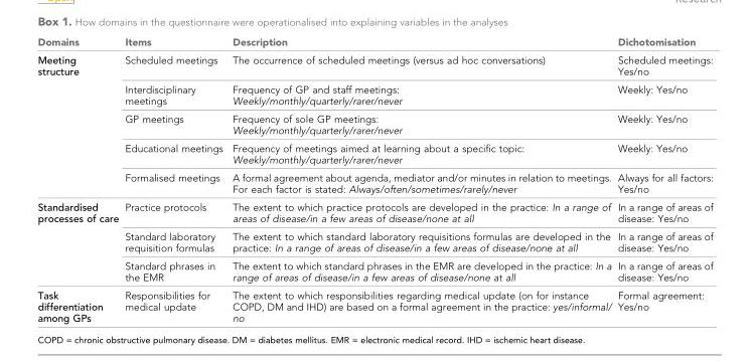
<table><thead><tr><td>Domains</td><td>Items</td><td>Description</td><td>Dichotomisation</td></tr></thead><tbody><tr><td rowspan="5">Meeting structure</td><td>Scheduled meetings</td><td>The occurrence of scheduled meetings (versus ad hoc conversations)</td><td>Scheduled meetings: Yes/no</td></tr><tr><td>Interdisciplinary meetings</td><td>Frequency of GP and staff meetings: Weekly/monthly/quarterly/rarer/never</td><td>Weekly: Yes/no</td></tr><tr><td>GP meetings</td><td>Frequency of sole GP meetings: Weekly/monthly/quarterly/rarer/never</td><td>Weekly: Yes/no</td></tr><tr><td>Educational meetings</td><td>Frequency of meetings aimed at learning about a specific topic: Weekly/monthly/quarterly/rarer/never</td><td>Weekly: Yes/no</td></tr><tr><td>Formalised meetings</td><td>A formal agreement about agenda, mediator and/or minutes in relation to meetings. For each factor is stated: Always/often/sometimes/rarely/never</td><td>Always for all factors: Yes/no</td></tr><tr><td rowspan="3">Standardised processes of care</td><td>Practice protocols</td><td>The extent to which practice protocols are developed in the practice: In a range of areas of disease/in a few areas of disease/none at all</td><td>In a range of areas of disease: Yes/no</td></tr><tr><td>Standard laboratory requisition formulas</td><td>The extent to which standard laboratory requisitions formulas are developed in the practice: In a range of areas of disease/in a few areas of disease/none at all</td><td>In a range of areas of disease: Yes/no</td></tr><tr><td>Standard phrases in the EMR</td><td>The extent to which standard phrases in the EMR are developed in the practice: In a range of areas of disease/in a few areas of disease/none at all</td><td>In a range of areas of disease: Yes/no</td></tr><tr><td>Task differentiation among GPs</td><td>Responsibilities for medical update</td><td>The extent to which responsibilities regarding medical update (on for instance COPD, DM and IHD) are based on a formal agreement in the practice: yes/informal/ no</td><td>Formal agreement: Yes/no</td></tr></tbody></table>